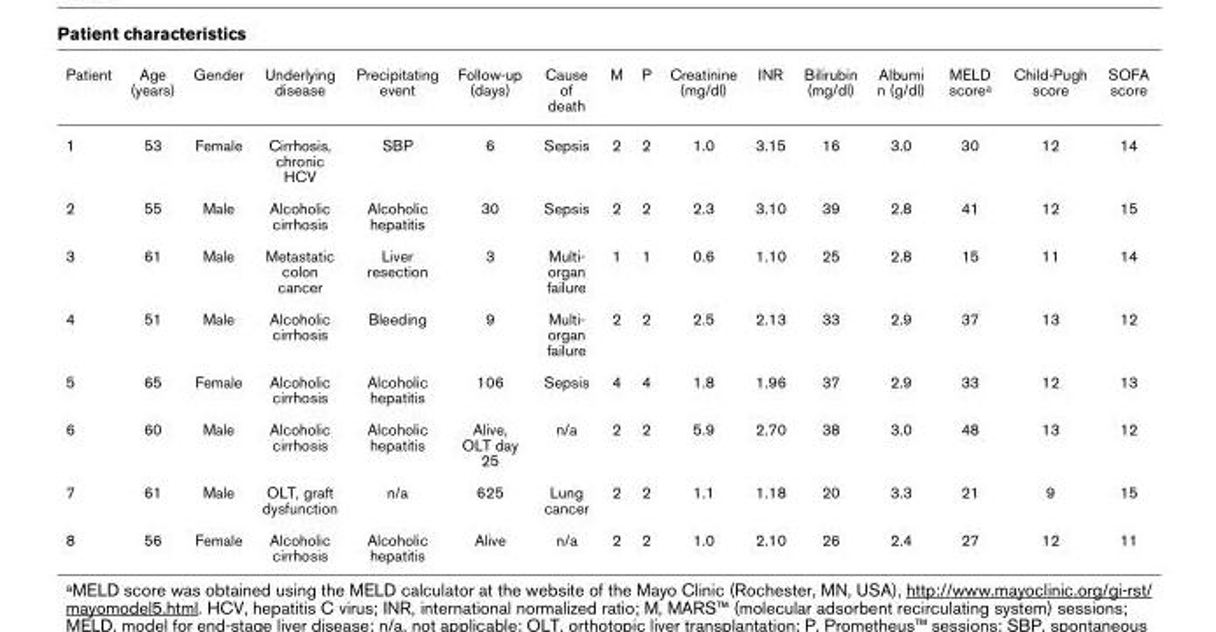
<table><thead><tr><td>Patient</td><td>Age (years)</td><td>Gender</td><td>Underlying disease</td><td>Precipitating event</td><td>Follow-up (days)</td><td>Cause of death</td><td>M</td><td>P</td><td>Creatinine (mg/dl)</td><td>INR</td><td>Bilirubin (mg/dl)</td><td>Albumi n (g/dl)</td><td>MELD scorea</td><td>Child-Pugh score</td><td>SOFA score</td></tr></thead><tbody><tr><td>1</td><td>53</td><td>Female</td><td>Cirrhosis, chronic HCV</td><td>SBP</td><td>6</td><td>Sepsis</td><td>2</td><td>2</td><td>1.0</td><td>3.15</td><td>16</td><td>3.0</td><td>30</td><td>12</td><td>14</td></tr><tr><td>2</td><td>55</td><td>Male</td><td>Alcoholic cirrhosis</td><td>Alcoholic hepatitis</td><td>30</td><td>Sepsis</td><td>2</td><td>2</td><td>2.3</td><td>3.10</td><td>39</td><td>2.8</td><td>41</td><td>12</td><td>15</td></tr><tr><td>3</td><td>61</td><td>Male</td><td>Metastatic colon cancer</td><td>Liver resection</td><td>3</td><td>Multi- organ failure</td><td>1</td><td>1</td><td>0.6</td><td>1.10</td><td>25</td><td>2.8</td><td>15</td><td>11</td><td>14</td></tr><tr><td>4</td><td>51</td><td>Male</td><td>Alcoholic cirrhosis</td><td>Bleeding</td><td>9</td><td>Multi- organ failure</td><td>2</td><td>2</td><td>2.5</td><td>2.13</td><td>33</td><td>2.9</td><td>37</td><td>13</td><td>12</td></tr><tr><td>5</td><td>65</td><td>Female</td><td>Alcoholic cirrhosis</td><td>Alcoholic hepatitis</td><td>106</td><td>Sepsis</td><td>4</td><td>4</td><td>1.8</td><td>1.96</td><td>37</td><td>2.9</td><td>33</td><td>12</td><td>13</td></tr><tr><td>6</td><td>60</td><td>Male</td><td>Alcoholic cirrhosis</td><td>Alcoholic hepatitis</td><td>Alive, OLT day 25</td><td>n/a</td><td>2</td><td>2</td><td>5.9</td><td>2.70</td><td>38</td><td>3.0</td><td>48</td><td>13</td><td>12</td></tr><tr><td>7</td><td>61</td><td>Male</td><td>OLT, graft dysfunction</td><td>n/a</td><td>625</td><td>Lung cancer</td><td>2</td><td>2</td><td>1.1</td><td>1.18</td><td>20</td><td>3.3</td><td>21</td><td>9</td><td>15</td></tr><tr><td>8</td><td>56</td><td>Female</td><td>Alcoholic cirrhosis</td><td>Alcoholic hepatitis</td><td>Alive</td><td>n/a</td><td>2</td><td>2</td><td>1.0</td><td>2.10</td><td>26</td><td>2.4</td><td>27</td><td>12</td><td>11</td></tr></tbody></table>